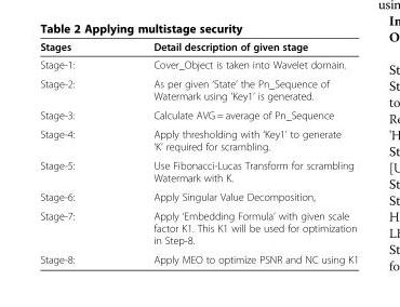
<table><thead><tr><td>Stages</td><td>Detail description of given stage</td></tr></thead><tbody><tr><td>Stage-1:</td><td>Cover_Object is taken into Wavelet domain.</td></tr><tr><td>Stage-2:</td><td>As per given ‘State’ the Pn_Sequence of Watermark using ‘Key1’ is generated.</td></tr><tr><td>Stage-3:</td><td>Calculate AVG = average of Pn_Sequence</td></tr><tr><td>Stage-4:</td><td>Apply thresholding with ‘Key1’ to generate ‘K’ required for scrambling.</td></tr><tr><td>Stage-5:</td><td>Use Fibonacci-Lucas Transform for scrambling Watermark with K.</td></tr><tr><td>Stage-6:</td><td>Apply Singular Value Decomposition,</td></tr><tr><td>Stage-7:</td><td>Apply ‘Embedding Formula’ with given scale factor K1. This K1 will be used for optimization in Step-8.</td></tr><tr><td>Stage-8:</td><td>Apply MEO to optimize PSNR and NC using K1</td></tr></tbody></table>